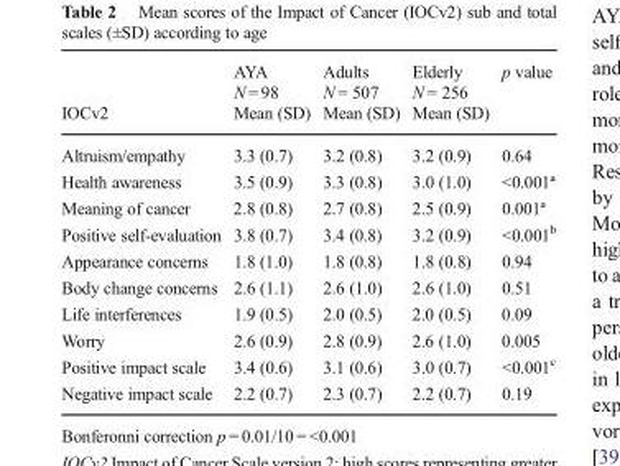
<table><thead><tr><td rowspan="3">IOCv2</td><td rowspan="3">AYA N = 98 Mean (SD)</td><td rowspan="3">Adults N = 507 Mean (SD)</td><td rowspan="3">Elderly N = 256 Mean (SD)</td><td rowspan="3">p value</td></tr><tr></tr><tr></tr></thead><tbody><tr><td>Altruism/empathy</td><td>3.3 (0.7)</td><td>3.2 (0.8)</td><td>3.2 (0.9)</td><td>0.64</td></tr><tr><td>Health awareness</td><td>3.5 (0.9)</td><td>3.3 (0.8)</td><td>3.0 (1.0)</td><td>&lt;0.001ª</td></tr><tr><td>Meaning of cancer</td><td>2.8 (0.8)</td><td>2.7 (0.8)</td><td>2.5 (0.9)</td><td>0.001ª</td></tr><tr><td>Positive self-evaluation</td><td>3.8 (0.7)</td><td>3.4 (0.8)</td><td>3.2 (0.9)</td><td>&lt;0.001<sup>b</sup></td></tr><tr><td>Appearance concerns</td><td>1.8 (1.0)</td><td>1.8 (0.8)</td><td>1.8 (0.8)</td><td>0.94</td></tr><tr><td>Body change concerns</td><td>2.6 (1.1)</td><td>2.6 (1.0)</td><td>2.6 (1.0)</td><td>0.51</td></tr><tr><td>Life interferences</td><td>1.9 (0.5)</td><td>2.0 (0.5)</td><td>2.0 (0.5)</td><td>0.09</td></tr><tr><td>Worry</td><td>2.6 (0.9)</td><td>2.8 (0.9)</td><td>2.6 (1.0)</td><td>0.005</td></tr><tr><td>Positive impact scale</td><td>3.4 (0.6)</td><td>3.1 (0.6)</td><td>3.0 (0.7)</td><td>&lt;0.001<sup>c</sup></td></tr><tr><td>Negative impact scale</td><td>2.2 (0.7)</td><td>2.3 (0.7)</td><td>2.2 (0.7)</td><td>0.19</td></tr></tbody></table>